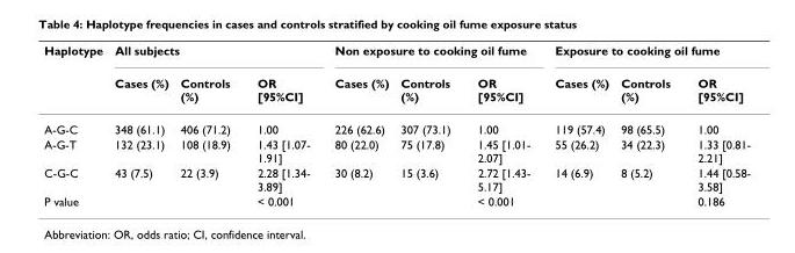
<table><thead><tr><td rowspan="2">Haplotype</td><td colspan="3">All subjects</td><td colspan="3">Non exposure to cooking oil fume</td><td colspan="3">Exposure to cooking oil fume</td></tr><tr><td>Cases (%)</td><td>Controls (%)</td><td>OR [95%CI]</td><td>Cases (%)</td><td>Controls (%)</td><td>OR [95%CI]</td><td>Cases (%)</td><td>Controls (%)</td><td>OR [95%CI]</td></tr></thead><tbody><tr><td>A-G-C</td><td>348 (61.1)</td><td>406 (71.2)</td><td>1.00</td><td>226 (62.6)</td><td>307 (73.1)</td><td>1.00</td><td>119 (57.4)</td><td>98 (65.5)</td><td>1.00</td></tr><tr><td>A-G-T</td><td>132 (23.1)</td><td>108 (18.9)</td><td>1.43 [1.07- 1.91]</td><td>80 (22.0)</td><td>75 (17.8)</td><td>1.45 [1.01- 2.07]</td><td>55 (26.2)</td><td>34 (22.3)</td><td>1.33 [0.81- 2.21]</td></tr><tr><td>C-G-C</td><td>43 (7.5)</td><td>22 (3.9)</td><td>2.28 [1.34- 3.89]</td><td>30 (8.2)</td><td>15 (3.6)</td><td>2.72 [1.43- 5.17]</td><td>14 (6.9)</td><td>8 (5.2)</td><td>1.44 [0.58- 3.58]</td></tr><tr><td>P value</td><td></td><td></td><td>&lt; 0.001</td><td></td><td></td><td>&lt; 0.001</td><td></td><td></td><td>0.186</td></tr></tbody></table>